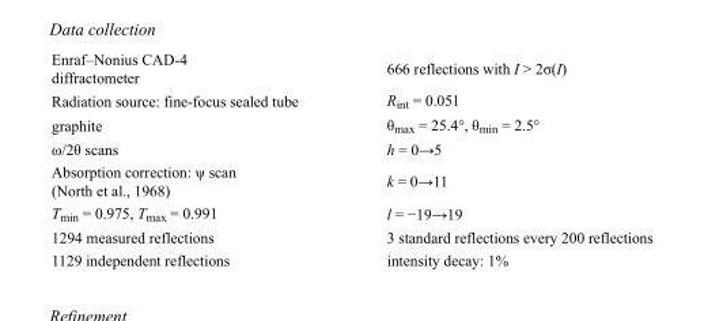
<table><tbody><tr><td>Enraf–Nonius CAD-4 diffractometer</td><td>666 reflections with I &gt; 2σ(I)</td></tr><tr><td>Radiation source: fine-focus sealed tube</td><td>R<sub>int</sub> = 0.051</td></tr><tr><td>graphite</td><td>θ<sub>max</sub> = 25.4°, θ<sub>min</sub> = 2.5°</td></tr><tr><td>ω/2θ scans</td><td>h = 0→5</td></tr><tr><td>Absorption correction: ψ scan (North et al., 1968)</td><td>k = 0→11</td></tr><tr><td>T<sub>min</sub> = 0.975, T<sub>max</sub> = 0.991</td><td>l = −19→19</td></tr><tr><td>1294 measured reflections</td><td>3 standard reflections every 200 reflections</td></tr><tr><td>1129 independent reflections</td><td>intensity decay: 1%</td></tr></tbody></table>